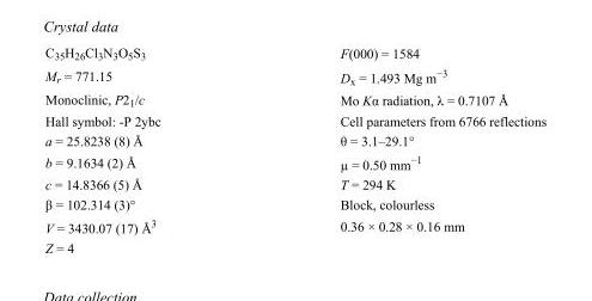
<table><tbody><tr><td>C<sub>35</sub>H<sub>26</sub>Cl<sub>3</sub>N<sub>3</sub>O<sub>5</sub>S<sub>3</sub></td><td>F(000) = 1584</td></tr><tr><td>M<sub>r</sub> = 771.15</td><td>D<sub>x</sub> = 1.493 Mg m<sup>−3</sup></td></tr><tr><td>Monoclinic, P2<sub>1</sub>/c</td><td>Mo Kα radiation, λ = 0.7107 Å</td></tr><tr><td>Hall symbol: -P 2ybc</td><td>Cell parameters from 6766 reflections</td></tr><tr><td>a = 25.8238 (8) Å</td><td>θ = 3.1–29.1°</td></tr><tr><td>b = 9.1634 (2) Å</td><td>µ = 0.50 mm<sup>−1</sup></td></tr><tr><td>c = 14.8366 (5) Å</td><td>T = 294 K</td></tr><tr><td>β = 102.314 (3)°</td><td>Block, colourless</td></tr><tr><td>V = 3430.07 (17) Å<sup>3</sup></td><td>0.36 × 0.28 × 0.16 mm</td></tr><tr><td>Z = 4</td><td></td></tr></tbody></table>